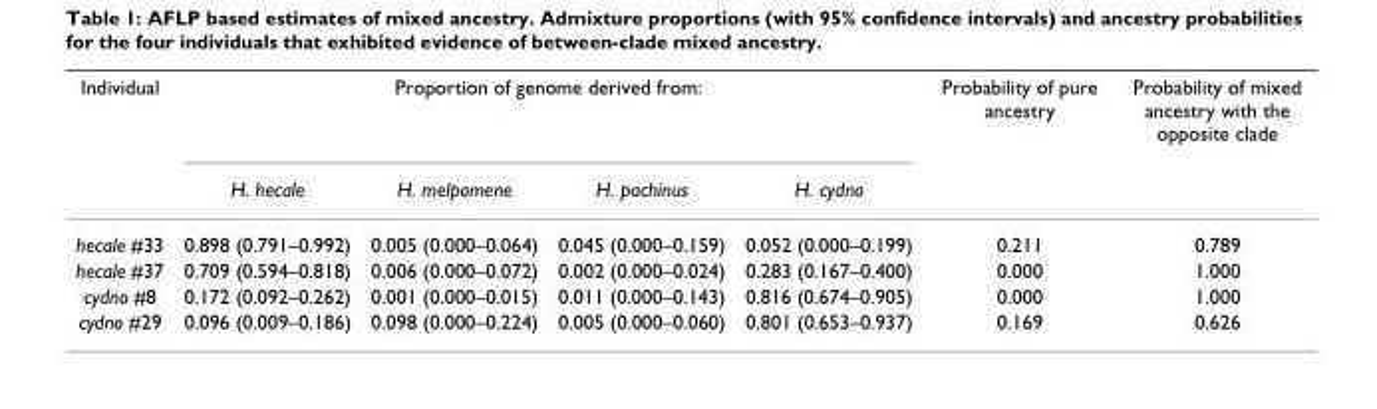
<table><thead><tr><td rowspan="2">Individual</td><td colspan="4">Proportion of genome derived from:</td><td rowspan="2">Probability of pure ancestry</td><td rowspan="2">Probability of mixed ancestry with the opposite clade</td></tr><tr><td>H. hecale</td><td>H. melpomene</td><td>H. pachinus</td><td>H. cydno</td></tr></thead><tbody><tr><td>hecale #33</td><td>0.898 (0.791–0.992)</td><td>0.005 (0.000–0.064)</td><td>0.045 (0.000–0.159)</td><td>0.052 (0.000–0.199)</td><td>0.211</td><td>0.789</td></tr><tr><td>hecale #37</td><td>0.709 (0.594–0.818)</td><td>0.006 (0.000–0.072)</td><td>0.002 (0.000–0.024)</td><td>0.283 (0.167–0.400)</td><td>0.000</td><td>1.000</td></tr><tr><td>cydno #8</td><td>0.172 (0.092–0.262)</td><td>0.001 (0.000–0.015)</td><td>0.011 (0.000–0.143)</td><td>0.816 (0.674–0.905)</td><td>0.000</td><td>1.000</td></tr><tr><td>cydno #29</td><td>0.096 (0.009–0.186)</td><td>0.098 (0.000–0.224)</td><td>0.005 (0.000–0.060)</td><td>0.801 (0.653–0.937)</td><td>0.169</td><td>0.626</td></tr></tbody></table>